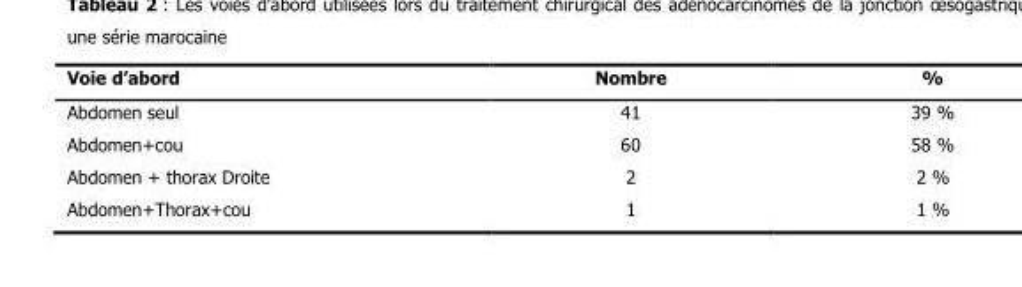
<table><thead><tr><td>Voie d’abord</td><td>Nombre</td><td>%</td></tr></thead><tbody><tr><td>Abdomen seul</td><td>41</td><td>39 %</td></tr><tr><td>Abdomen+cou</td><td>60</td><td>58 %</td></tr><tr><td>Abdomen + thorax Droite</td><td>2</td><td>2 %</td></tr><tr><td>Abdomen+Thorax+cou</td><td>1</td><td>1 %</td></tr></tbody></table>